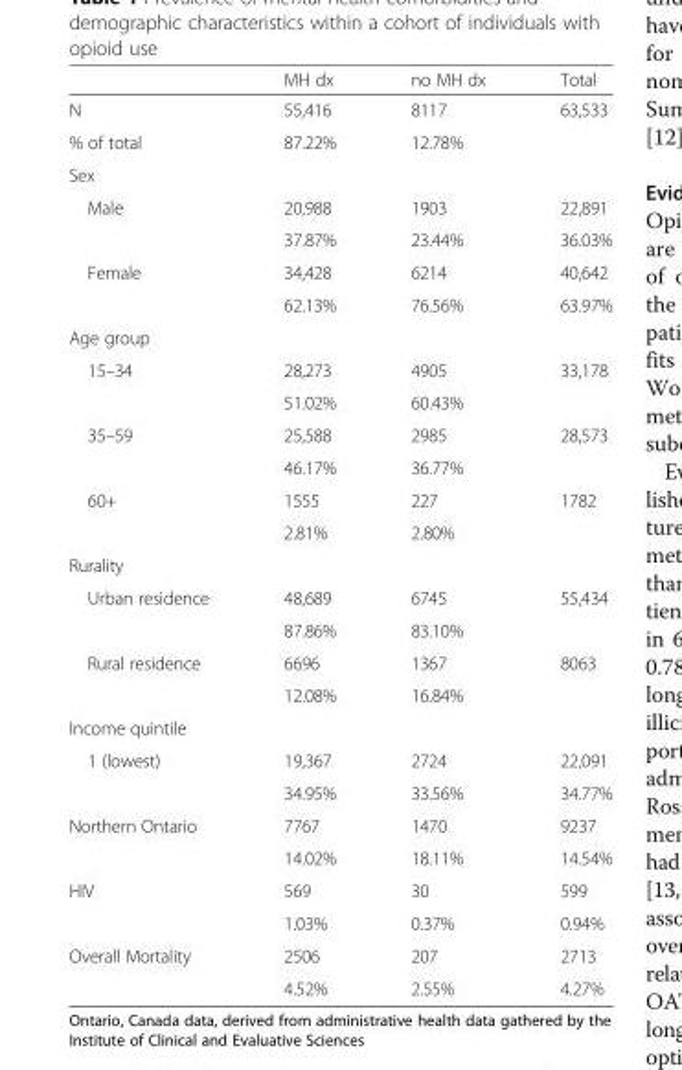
<table><thead><tr><td></td><td>MH dx</td><td>no MH dx</td><td>Total</td></tr></thead><tbody><tr><td>N</td><td>55,416</td><td>8117</td><td>63,533</td></tr><tr><td>% of total</td><td>87.22%</td><td>12.78%</td><td></td></tr><tr><td colspan="4">Sex</td></tr><tr><td rowspan="2">Male</td><td>20,988</td><td>1903</td><td>22,891</td></tr><tr><td>37.87%</td><td>23.44%</td><td>36.03%</td></tr><tr><td rowspan="2">Female</td><td>34,428</td><td>6214</td><td>40,642</td></tr><tr><td>62.13%</td><td>76.56%</td><td>63.97%</td></tr><tr><td colspan="4">Age group</td></tr><tr><td rowspan="2">15–34</td><td>28,273</td><td>4905</td><td>33,178</td></tr><tr><td>51.02%</td><td>60.43%</td><td></td></tr><tr><td rowspan="2">35–59</td><td>25,588</td><td>2985</td><td>28,573</td></tr><tr><td>46.17%</td><td>36.77%</td><td></td></tr><tr><td rowspan="2">60+</td><td>1555</td><td>227</td><td>1782</td></tr><tr><td>2.81%</td><td>2.80%</td><td></td></tr><tr><td colspan="4">Rurality</td></tr><tr><td rowspan="2">Urban residence</td><td>48,689</td><td>6745</td><td>55,434</td></tr><tr><td>87.86%</td><td>83.10%</td><td></td></tr><tr><td rowspan="2">Rural residence</td><td>6696</td><td>1367</td><td>8063</td></tr><tr><td>12.08%</td><td>16.84%</td><td></td></tr><tr><td colspan="4">Income quintile</td></tr><tr><td rowspan="2">1 (lowest)</td><td>19,367</td><td>2724</td><td>22,091</td></tr><tr><td>34.95%</td><td>33.56%</td><td>34.77%</td></tr><tr><td rowspan="2">Northern Ontario</td><td>7767</td><td>1470</td><td>9237</td></tr><tr><td>14.02%</td><td>18.11%</td><td>14.54%</td></tr><tr><td rowspan="2">HIV</td><td>569</td><td>30</td><td>599</td></tr><tr><td>1.03%</td><td>0.37%</td><td>0.94%</td></tr><tr><td rowspan="2">Overall Mortality</td><td>2506</td><td>207</td><td>2713</td></tr><tr><td>4.52%</td><td>2.55%</td><td>4.27%</td></tr></tbody></table>